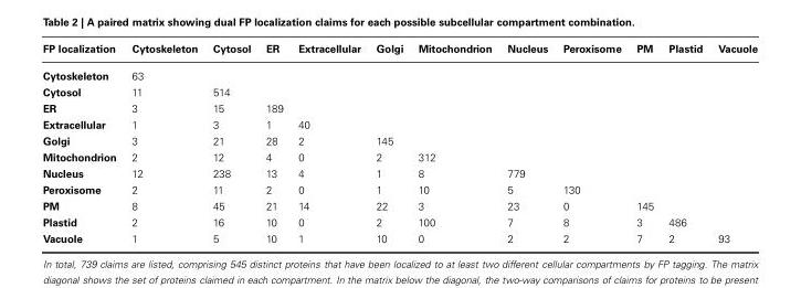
<table><thead><tr><td>FP localization</td><td>Cytoskeleton</td><td>Cytosol</td><td>ER</td><td>Extracellular</td><td>Golgi</td><td>Mitochondrion</td><td>Nucleus</td><td>Peroxisome</td><td>PM</td><td>Plastid</td><td>Vacuole</td></tr></thead><tbody><tr><td>Cytoskeleton</td><td>63</td><td></td><td></td><td></td><td></td><td></td><td></td><td></td><td></td><td></td><td></td></tr><tr><td>Cytosol</td><td>11</td><td>514</td><td></td><td></td><td></td><td></td><td></td><td></td><td></td><td></td><td></td></tr><tr><td>ER</td><td>3</td><td>15</td><td>189</td><td></td><td></td><td></td><td></td><td></td><td></td><td></td><td></td></tr><tr><td>Extracellular</td><td>1</td><td>3</td><td>1</td><td>40</td><td></td><td></td><td></td><td></td><td></td><td></td><td></td></tr><tr><td>Golgi</td><td>3</td><td>21</td><td>28</td><td>2</td><td>145</td><td></td><td></td><td></td><td></td><td></td><td></td></tr><tr><td>Mitochondrion</td><td>2</td><td>12</td><td>4</td><td>0</td><td>2</td><td>312</td><td></td><td></td><td></td><td></td><td></td></tr><tr><td>Nucleus</td><td>12</td><td>238</td><td>13</td><td>4</td><td>1</td><td>8</td><td>779</td><td></td><td></td><td></td><td></td></tr><tr><td>Peroxisome</td><td>2</td><td>11</td><td>2</td><td>0</td><td>1</td><td>10</td><td>5</td><td>130</td><td></td><td></td><td></td></tr><tr><td>PM</td><td>8</td><td>45</td><td>21</td><td>14</td><td>22</td><td>3</td><td>23</td><td>0</td><td>145</td><td></td><td></td></tr><tr><td>Plastid</td><td>2</td><td>16</td><td>10</td><td>0</td><td>2</td><td>100</td><td>7</td><td>8</td><td>3</td><td>486</td><td></td></tr><tr><td>Vacuole</td><td>1</td><td>5</td><td>10</td><td>1</td><td>10</td><td>0</td><td>2</td><td>2</td><td>7</td><td>2</td><td>93</td></tr></tbody></table>